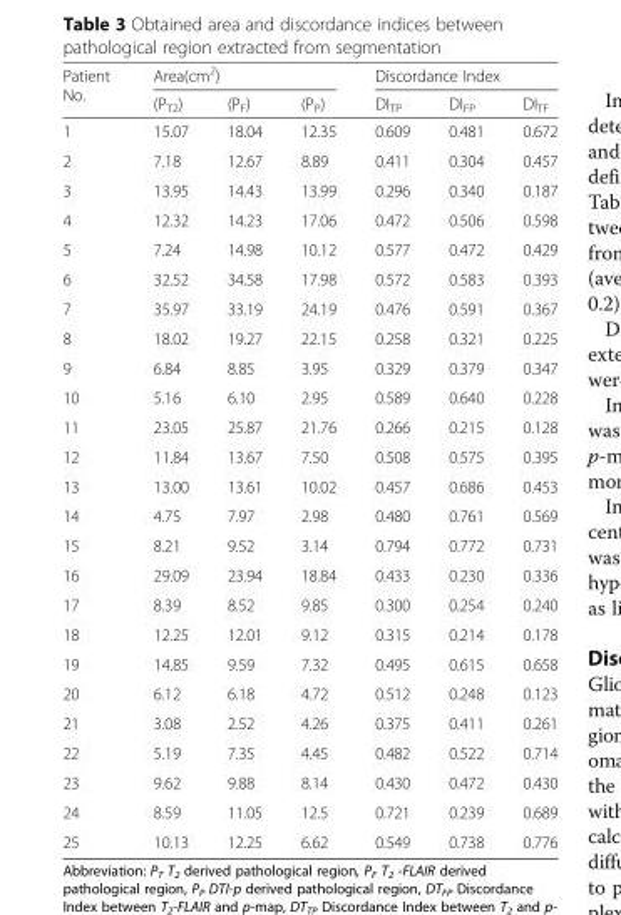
<table><thead><tr><td rowspan="2">Patient No.</td><td colspan="3">Area(cm<sup>2</sup>)</td><td colspan="3">Discordance Index</td></tr><tr><td>(P<sub>T2</sub>)</td><td>(P<sub>F</sub>)</td><td>(P<sub>P</sub>)</td><td>DI<sub>TP</sub></td><td>DI<sub>FP</sub></td><td>DI<sub>TF</sub></td></tr></thead><tbody><tr><td>1</td><td>15.07</td><td>18.04</td><td>12.35</td><td>0.609</td><td>0.481</td><td>0.672</td></tr><tr><td>2</td><td>7.18</td><td>12.67</td><td>8.89</td><td>0.411</td><td>0.304</td><td>0.457</td></tr><tr><td>3</td><td>13.95</td><td>14.43</td><td>13.99</td><td>0.296</td><td>0.340</td><td>0.187</td></tr><tr><td>4</td><td>12.32</td><td>14.23</td><td>17.06</td><td>0.472</td><td>0.506</td><td>0.598</td></tr><tr><td>5</td><td>7.24</td><td>14.98</td><td>10.12</td><td>0.577</td><td>0.472</td><td>0.429</td></tr><tr><td>6</td><td>32.52</td><td>34.58</td><td>17.98</td><td>0.572</td><td>0.583</td><td>0.393</td></tr><tr><td>7</td><td>35.97</td><td>33.19</td><td>24.19</td><td>0.476</td><td>0.591</td><td>0.367</td></tr><tr><td>8</td><td>18.02</td><td>19.27</td><td>22.15</td><td>0.258</td><td>0.321</td><td>0.225</td></tr><tr><td>9</td><td>6.84</td><td>8.85</td><td>3.95</td><td>0.329</td><td>0.379</td><td>0.347</td></tr><tr><td>10</td><td>5.16</td><td>6.10</td><td>2.95</td><td>0.589</td><td>0.640</td><td>0.228</td></tr><tr><td>11</td><td>23.05</td><td>25.87</td><td>21.76</td><td>0.266</td><td>0.215</td><td>0.128</td></tr><tr><td>12</td><td>11.84</td><td>13.67</td><td>7.50</td><td>0.508</td><td>0.575</td><td>0.395</td></tr><tr><td>13</td><td>13.00</td><td>13.61</td><td>10.02</td><td>0.457</td><td>0.686</td><td>0.453</td></tr><tr><td>14</td><td>4.75</td><td>7.97</td><td>2.98</td><td>0.480</td><td>0.761</td><td>0.569</td></tr><tr><td>15</td><td>8.21</td><td>9.52</td><td>3.14</td><td>0.794</td><td>0.772</td><td>0.731</td></tr><tr><td>16</td><td>29.09</td><td>23.94</td><td>18.84</td><td>0.433</td><td>0.230</td><td>0.336</td></tr><tr><td>17</td><td>8.39</td><td>8.52</td><td>9.85</td><td>0.300</td><td>0.254</td><td>0.240</td></tr><tr><td>18</td><td>12.25</td><td>12.01</td><td>9.12</td><td>0.315</td><td>0.214</td><td>0.178</td></tr><tr><td>19</td><td>14.85</td><td>9.59</td><td>7.32</td><td>0.495</td><td>0.615</td><td>0.658</td></tr><tr><td>20</td><td>6.12</td><td>6.18</td><td>4.72</td><td>0.512</td><td>0.248</td><td>0.123</td></tr><tr><td>21</td><td>3.08</td><td>2.52</td><td>4.26</td><td>0.375</td><td>0.411</td><td>0.261</td></tr><tr><td>22</td><td>5.19</td><td>7.35</td><td>4.45</td><td>0.482</td><td>0.522</td><td>0.714</td></tr><tr><td>23</td><td>9.62</td><td>9.88</td><td>8.14</td><td>0.430</td><td>0.472</td><td>0.430</td></tr><tr><td>24</td><td>8.59</td><td>11.05</td><td>12.5</td><td>0.721</td><td>0.239</td><td>0.689</td></tr><tr><td>25</td><td>10.13</td><td>12.25</td><td>6.62</td><td>0.549</td><td>0.738</td><td>0.776</td></tr></tbody></table>